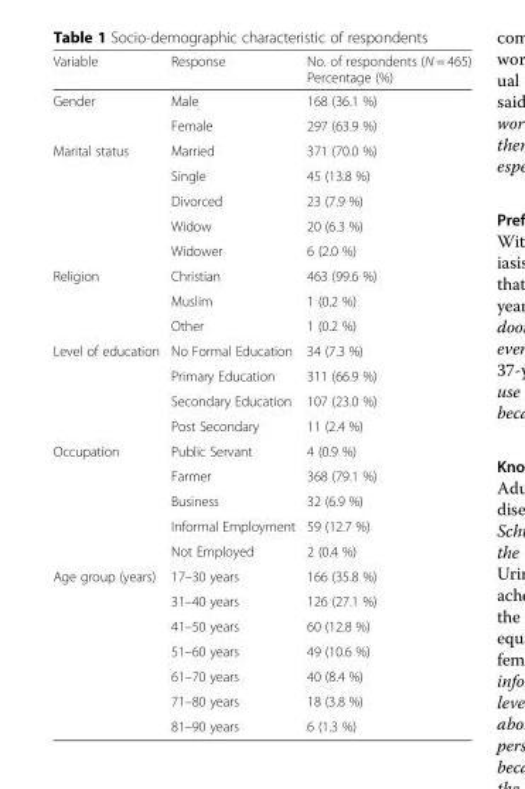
<table><thead><tr><td>Variable</td><td>Response</td><td>No. of respondents (N = 465) Percentage (%)</td></tr></thead><tbody><tr><td rowspan="2">Gender</td><td>Male</td><td>168 (36.1 %)</td></tr><tr><td>Female</td><td>297 (63.9 %)</td></tr><tr><td rowspan="5">Marital status</td><td>Married</td><td>371 (70.0 %)</td></tr><tr><td>Single</td><td>45 (13.8 %)</td></tr><tr><td>Divorced</td><td>23 (7.9 %)</td></tr><tr><td>Widow</td><td>20 (6.3 %)</td></tr><tr><td>Widower</td><td>6 (2.0 %)</td></tr><tr><td rowspan="3">Religion</td><td>Christian</td><td>463 (99.6 %)</td></tr><tr><td>Muslim</td><td>1 (0.2 %)</td></tr><tr><td>Other</td><td>1 (0.2 %)</td></tr><tr><td rowspan="4">Level of education</td><td>No Formal Education</td><td>34 (7.3 %)</td></tr><tr><td>Primary Education</td><td>311 (66.9 %)</td></tr><tr><td>Secondary Education</td><td>107 (23.0 %)</td></tr><tr><td>Post Secondary</td><td>11 (2.4 %)</td></tr><tr><td rowspan="5">Occupation</td><td>Public Servant</td><td>4 (0.9 %)</td></tr><tr><td>Farmer</td><td>368 (79.1 %)</td></tr><tr><td>Business</td><td>32 (6.9 %)</td></tr><tr><td>Informal Employment</td><td>59 (12.7 %)</td></tr><tr><td>Not Employed</td><td>2 (0.4 %)</td></tr><tr><td rowspan="7">Age group (years)</td><td>17–30 years</td><td>166 (35.8 %)</td></tr><tr><td>31–40 years</td><td>126 (27.1 %)</td></tr><tr><td>41–50 years</td><td>60 (12.8 %)</td></tr><tr><td>51–60 years</td><td>49 (10.6 %)</td></tr><tr><td>61–70 years</td><td>40 (8.4 %)</td></tr><tr><td>71–80 years</td><td>18 (3.8 %)</td></tr><tr><td>81–90 years</td><td>6 (1.3 %)</td></tr></tbody></table>